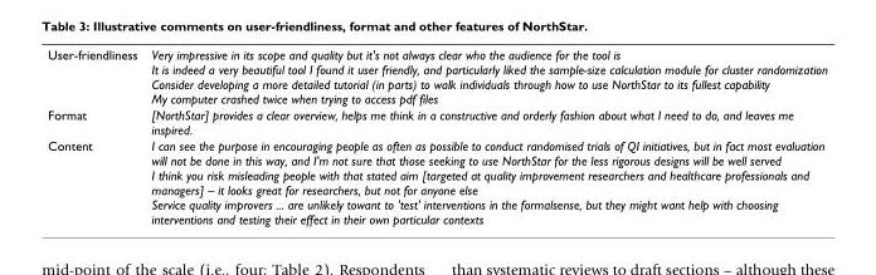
<table><tbody><tr><td>User-friendliness</td><td>Very impressive in its scope and quality but it&#x27;s not always clear who the audience for the tool is It is indeed a very beautiful tool I found it user friendly, and particularly liked the sample-size calculation module for cluster randomization Consider developing a more detailed tutorial (in parts) to walk individuals through how to use NorthStar to its fullest capability My computer crashed twice when trying to access pdf files</td></tr><tr><td>Format</td><td>[NorthStar] provides a clear overview, helps me think in a constructive and orderly fashion about what I need to do, and leaves me inspired.</td></tr><tr><td>Content</td><td>I can see the purpose in encouraging people as often as possible to conduct randomised trials of QI initiatives, but in fact most evaluation will not be done in this way, and I&#x27;m not sure that those seeking to use NorthStar for the less rigorous designs will be well served I think you risk misleading people with that stated aim [targeted at quality improvement researchers and healthcare professionals and managers] – it looks great for researchers, but not for anyone else Service quality improvers ... are unlikely towant to &#x27;test&#x27; interventions in the formalsense, but they might want help with choosing interventions and testing their effect in their own particular contexts</td></tr></tbody></table>